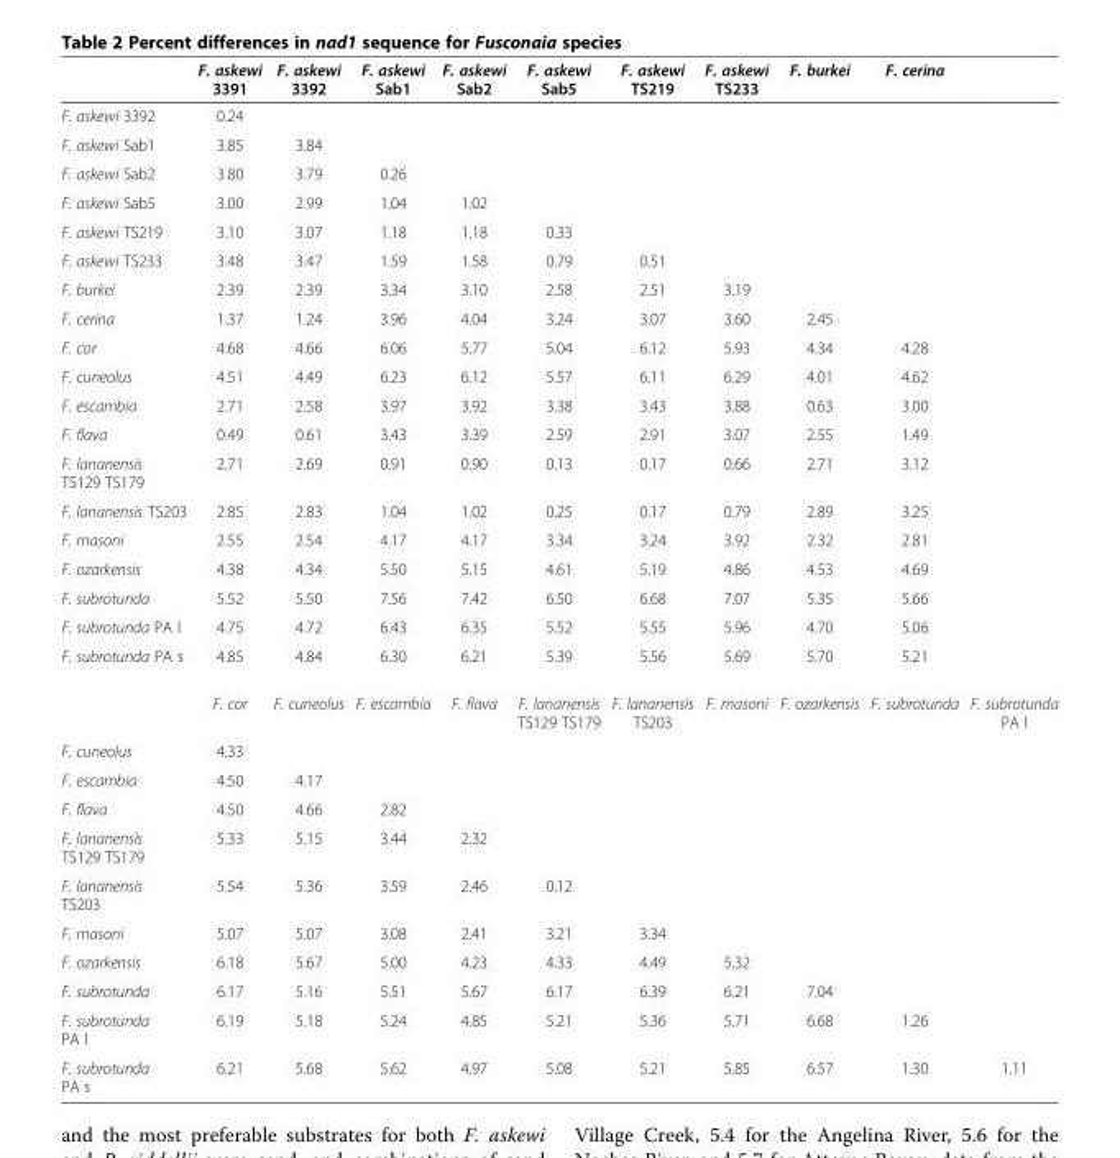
<table><thead><tr><td></td><td>F. askewi 3391</td><td>F. askewi 3392</td><td>F. askewi Sab1</td><td>F. askewi Sab2</td><td>F. askewi Sab5</td><td>F. askewi TS219</td><td>F. askewi TS233</td><td>F. burkei</td><td>F. cerina</td><td></td></tr></thead><tbody><tr><td>F. askewi 3392</td><td>0.24</td><td></td><td></td><td></td><td></td><td></td><td></td><td></td><td></td><td></td></tr><tr><td>F. askewi Sab1</td><td>3.85</td><td>3.84</td><td></td><td></td><td></td><td></td><td></td><td></td><td></td><td></td></tr><tr><td>F. askewi Sab2</td><td>3.80</td><td>3.79</td><td>0.26</td><td></td><td></td><td></td><td></td><td></td><td></td><td></td></tr><tr><td>F. askewi Sab5</td><td>3.00</td><td>2.99</td><td>1.04</td><td>1.02</td><td></td><td></td><td></td><td></td><td></td><td></td></tr><tr><td>F. askewi TS219</td><td>3.10</td><td>3.07</td><td>1.18</td><td>1.18</td><td>0.33</td><td></td><td></td><td></td><td></td><td></td></tr><tr><td>F. askewi TS233</td><td>3.48</td><td>3.47</td><td>1.59</td><td>1.58</td><td>0.79</td><td>0.51</td><td></td><td></td><td></td><td></td></tr><tr><td>F. burkei</td><td>2.39</td><td>2.39</td><td>3.34</td><td>3.10</td><td>2.58</td><td>2.51</td><td>3.19</td><td></td><td></td><td></td></tr><tr><td>F. cerina</td><td>1.37</td><td>1.24</td><td>3.96</td><td>4.04</td><td>3.24</td><td>3.07</td><td>3.60</td><td>2.45</td><td></td><td></td></tr><tr><td>F. cor</td><td>4.68</td><td>4.66</td><td>6.06</td><td>5.77</td><td>5.04</td><td>6.12</td><td>5.93</td><td>4.34</td><td>4.28</td><td></td></tr><tr><td>F. cuneolus</td><td>4.51</td><td>4.49</td><td>6.23</td><td>6.12</td><td>5.57</td><td>6.11</td><td>6.29</td><td>4.01</td><td>4.62</td><td></td></tr><tr><td>F. escambia</td><td>2.71</td><td>2.58</td><td>3.97</td><td>3.92</td><td>3.38</td><td>3.43</td><td>3.88</td><td>0.63</td><td>3.00</td><td></td></tr><tr><td>F. flava</td><td>0.49</td><td>0.61</td><td>3.43</td><td>3.39</td><td>2.59</td><td>2.91</td><td>3.07</td><td>2.55</td><td>1.49</td><td></td></tr><tr><td>F. lananensis TS129 TS179</td><td>2.71</td><td>2.69</td><td>0.91</td><td>0.90</td><td>0.13</td><td>0.17</td><td>0.66</td><td>2.71</td><td>3.12</td><td></td></tr><tr><td>F. lananensis TS203</td><td>2.85</td><td>2.83</td><td>1.04</td><td>1.02</td><td>0.25</td><td>0.17</td><td>0.79</td><td>2.89</td><td>3.25</td><td></td></tr><tr><td>F. masoni</td><td>2.55</td><td>2.54</td><td>4.17</td><td>4.17</td><td>3.34</td><td>3.24</td><td>3.92</td><td>2.32</td><td>2.81</td><td></td></tr><tr><td>F. ozarkensis</td><td>4.38</td><td>4.34</td><td>5.50</td><td>5.15</td><td>4.61</td><td>5.19</td><td>4.86</td><td>4.53</td><td>4.69</td><td></td></tr><tr><td>F. subrotunda</td><td>5.52</td><td>5.50</td><td>7.56</td><td>7.42</td><td>6.50</td><td>6.68</td><td>7.07</td><td>5.35</td><td>5.66</td><td></td></tr><tr><td>F. subrotunda PA l</td><td>4.75</td><td>4.72</td><td>6.43</td><td>6.35</td><td>5.52</td><td>5.55</td><td>5.96</td><td>4.70</td><td>5.06</td><td></td></tr><tr><td rowspan="2">F. subrotunda PA s</td><td>4.85</td><td>4.84</td><td>6.30</td><td>6.21</td><td>5.39</td><td>5.56</td><td>5.69</td><td>5.70</td><td>5.21</td><td></td></tr><tr><td>F. cor</td><td>F. cuneolus</td><td>F. escambia</td><td>F. flava</td><td>F. lananensis TS129 TS179</td><td>F. lananensis TS203</td><td>F. masoni</td><td>F. ozarkensis</td><td>F. subrotunda</td><td>F. subrotunda PA l</td></tr><tr><td>F. cuneolus</td><td>4.33</td><td></td><td></td><td></td><td></td><td></td><td></td><td></td><td></td><td></td></tr><tr><td>F. escambia</td><td>4.50</td><td>4.17</td><td></td><td></td><td></td><td></td><td></td><td></td><td></td><td></td></tr><tr><td>F. flava</td><td>4.50</td><td>4.66</td><td>2.82</td><td></td><td></td><td></td><td></td><td></td><td></td><td></td></tr><tr><td>F. lananensis TS129 TS179</td><td>5.33</td><td>5.15</td><td>3.44</td><td>2.32</td><td></td><td></td><td></td><td></td><td></td><td></td></tr><tr><td>F. lananensis TS203</td><td>5.54</td><td>5.36</td><td>3.59</td><td>2.46</td><td>0.12</td><td></td><td></td><td></td><td></td><td></td></tr><tr><td>F. masoni</td><td>5.07</td><td>5.07</td><td>3.08</td><td>2.41</td><td>3.21</td><td>3.34</td><td></td><td></td><td></td><td></td></tr><tr><td>F. ozarkensis</td><td>6.18</td><td>5.67</td><td>5.00</td><td>4.23</td><td>4.33</td><td>4.49</td><td>5.32</td><td></td><td></td><td></td></tr><tr><td>F. subrotunda</td><td>6.17</td><td>5.16</td><td>5.51</td><td>5.67</td><td>6.17</td><td>6.39</td><td>6.21</td><td>7.04</td><td></td><td></td></tr><tr><td>F. subrotunda PA l</td><td>6.19</td><td>5.18</td><td>5.24</td><td>4.85</td><td>5.21</td><td>5.36</td><td>5.71</td><td>6.68</td><td>1.26</td><td></td></tr><tr><td>F. subrotunda PA s</td><td>6.21</td><td>5.68</td><td>5.62</td><td>4.97</td><td>5.08</td><td>5.21</td><td>5.85</td><td>6.57</td><td>1.30</td><td>1.11</td></tr></tbody></table>